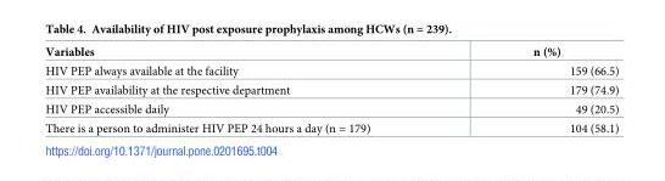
<table><thead><tr><td>Variables</td><td>n (%)</td></tr></thead><tbody><tr><td>HIV PEP always available at the facility</td><td>159 (66.5)</td></tr><tr><td>HIV PEP availability at the respective department</td><td>179 (74.9)</td></tr><tr><td>HIV PEP accessible daily</td><td>49 (20.5)</td></tr><tr><td>There is a person to administer HIV PEP 24 hours a day (n = 179)</td><td>104 (58.1)</td></tr></tbody></table>